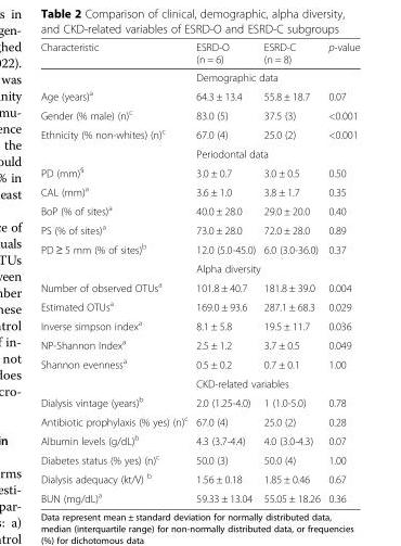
<table><thead><tr><td>Characteristic</td><td>ESRD-O (n = 6)</td><td>ESRD-C (n = 8)</td><td>p-value</td></tr></thead><tbody><tr><td></td><td colspan="2">Demographic data</td><td></td></tr><tr><td>Age (years)<sup>a</sup></td><td>64.3 ± 13.4</td><td>55.8 ± 18.7</td><td>0.07</td></tr><tr><td>Gender (% male) (n)<sup>c</sup></td><td>83.0 (5)</td><td>37.5 (3)</td><td>&lt;0.001</td></tr><tr><td rowspan="2">Ethnicity (% non-whites) (n)<sup>c</sup></td><td>67.0 (4)</td><td>25.0 (2)</td><td>&lt;0.001</td></tr><tr><td colspan="2">Periodontal data</td><td></td></tr><tr><td>PD (mm)<sup>§</sup></td><td>3.0 ± 0.7</td><td>3.0 ± 0.5</td><td>0.50</td></tr><tr><td>CAL (mm)<sup>a</sup></td><td>3.6 ± 1.0</td><td>3.8 ± 1.7</td><td>0.35</td></tr><tr><td>BoP (% of sites)<sup>a</sup></td><td>40.0 ± 28.0</td><td>29.0 ± 20.0</td><td>0.40</td></tr><tr><td>PS (% of sites)<sup>a</sup></td><td>73.0 ± 28.0</td><td>72.0 ± 28.0</td><td>0.89</td></tr><tr><td rowspan="2">PD ≥ 5 mm (% of sites)<sup>b</sup></td><td>12.0 (5.0-45.0)</td><td>6.0 (3.0-36.0)</td><td>0.37</td></tr><tr><td colspan="2">Alpha diversity</td><td></td></tr><tr><td>Number of observed OTUs<sup>a</sup></td><td>101.8 ± 40.7</td><td>181.8 ± 39.0</td><td>0.004</td></tr><tr><td>Estimated OTUs<sup>a</sup></td><td>169.0 ± 93.6</td><td>287.1 ± 68.3</td><td>0.029</td></tr><tr><td>Inverse simpson index<sup>a</sup></td><td>8.1 ± 5.8</td><td>19.5 ± 11.7</td><td>0.036</td></tr><tr><td>NP-Shannon Index<sup>a</sup></td><td>2.5 ± 1.2</td><td>3.7 ± 0.5</td><td>0.049</td></tr><tr><td rowspan="2">Shannon evenness<sup>a</sup></td><td>0.5 ± 0.2</td><td>0.7 ± 0.1</td><td>1.00</td></tr><tr><td colspan="2">CKD-related variables</td><td></td></tr><tr><td>Dialysis vintage (years)<sup>b</sup></td><td>2.0 (1.25-4.0)</td><td>1 (1.0-5.0)</td><td>0.78</td></tr><tr><td>Antibiotic prophylaxis (% yes) (n)<sup>c</sup></td><td>67.0 (4)</td><td>25.0 (2)</td><td>0.28</td></tr><tr><td>Albumin levels (g/dL)<sup>b</sup></td><td>4.3 (3.7-4.4)</td><td>4.0 (3.0-4.3)</td><td>0.07</td></tr><tr><td>Diabetes status (% yes) (n)<sup>c</sup></td><td>50.0 (3)</td><td>50.0 (4)</td><td>1.00</td></tr><tr><td>Dialysis adequacy (kt/V) <sup>b</sup></td><td>1.56 ± 0.18</td><td>1.85 ± 0.46</td><td>0.67</td></tr><tr><td>BUN (mg/dL)<sup>a</sup></td><td>59.33 ± 13.04</td><td>55.05 ± 18.26</td><td>0.36</td></tr></tbody></table>